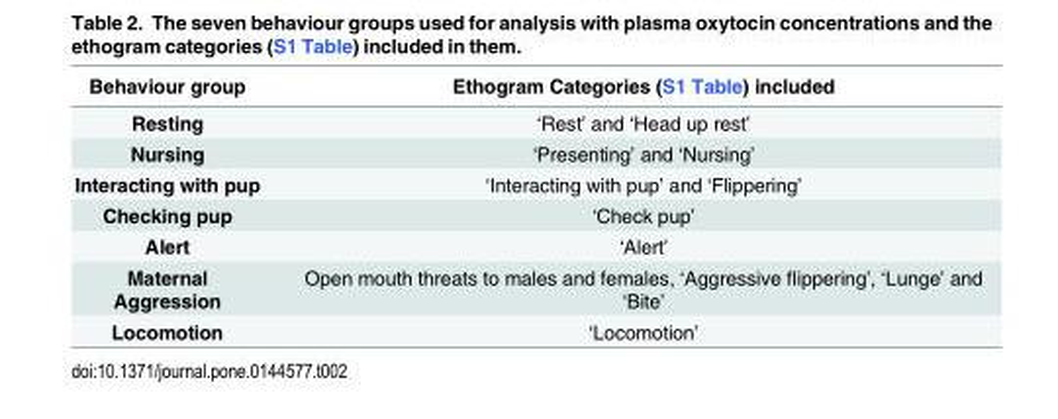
<table><thead><tr><td>Behaviour group</td><td>Ethogram Categories (S1 Table) included</td></tr></thead><tbody><tr><td>Resting</td><td>‘Rest’ and ‘Head up rest’</td></tr><tr><td>Nursing</td><td>‘Presenting’ and ‘Nursing’</td></tr><tr><td>Interacting with pup</td><td>‘Interacting with pup’ and ‘Flippering’</td></tr><tr><td>Checking pup</td><td>‘Check pup’</td></tr><tr><td>Alert</td><td>‘Alert’</td></tr><tr><td>Maternal Aggression</td><td>Open mouth threats to males and females, ‘Aggressive flippering’, ‘Lunge’ and ‘Bite’</td></tr><tr><td>Locomotion</td><td>‘Locomotion’</td></tr></tbody></table>